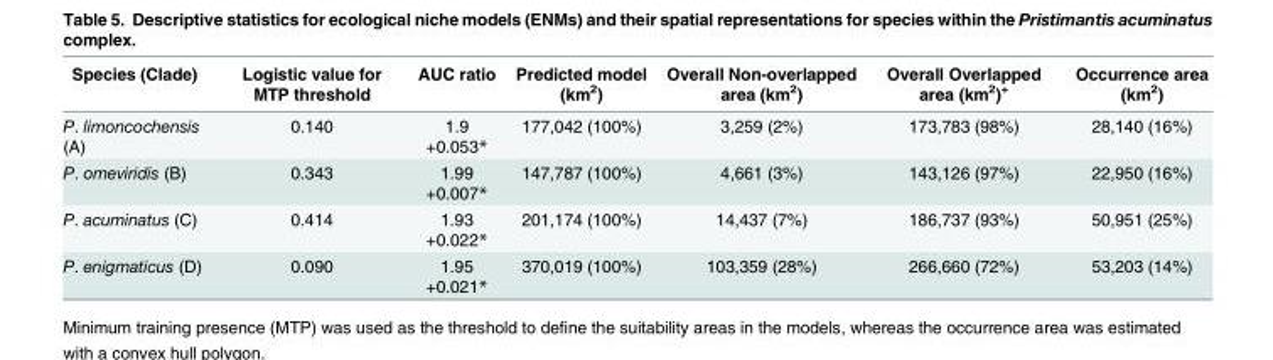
<table><thead><tr><td>Species (Clade)</td><td>Logistic value for MTP threshold</td><td>AUC ratio</td><td>Predicted model (km<sup>2</sup>)</td><td>Overall Non-overlapped area (km<sup>2</sup>)</td><td>Overall Overlapped area (km<sup>2</sup>)<sup>+</sup></td><td>Occurrence area (km<sup>2</sup>)</td></tr></thead><tbody><tr><td>P. limoncochensis (A)</td><td>0.140</td><td>1.9 +0.053*</td><td>177,042 (100%)</td><td>3,259 (2%)</td><td>173,783 (98%)</td><td>28,140 (16%)</td></tr><tr><td>P. omeviridis (B)</td><td>0.343</td><td>1.99 +0.007*</td><td>147,787 (100%)</td><td>4,661 (3%)</td><td>143,126 (97%)</td><td>22,950 (16%)</td></tr><tr><td>P. acuminatus (C)</td><td>0.414</td><td>1.93 +0.022*</td><td>201,174 (100%)</td><td>14,437 (7%)</td><td>186,737 (93%)</td><td>50,951 (25%)</td></tr><tr><td>P. enigmaticus (D)</td><td>0.090</td><td>1.95 +0.021*</td><td>370,019 (100%)</td><td>103,359 (28%)</td><td>266,660 (72%)</td><td>53,203 (14%)</td></tr></tbody></table>